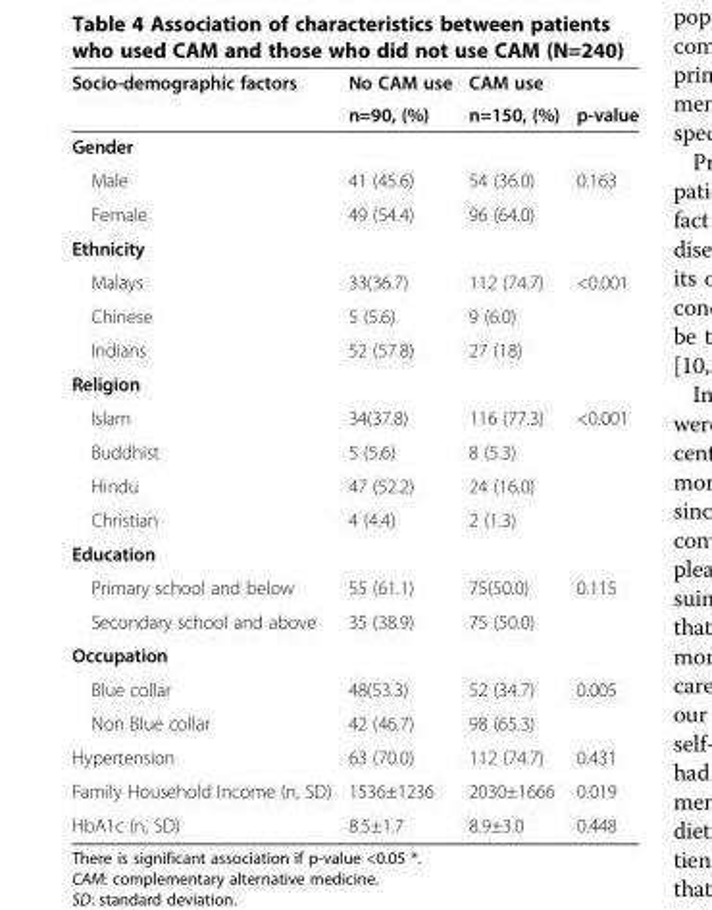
<table><thead><tr><td rowspan="2">Socio-demographic factors</td><td rowspan="2">No CAM use n=90, (%)</td><td rowspan="2">CAM use n=150, (%)</td><td rowspan="2">p-value</td></tr><tr></tr></thead><tbody><tr><td colspan="4">Gender</td></tr><tr><td>Male</td><td>41 (45.6)</td><td>54 (36.0)</td><td>0.163</td></tr><tr><td>Female</td><td>49 (54.4)</td><td>96 (64.0)</td><td></td></tr><tr><td colspan="4">Ethnicity</td></tr><tr><td>Malays</td><td>33(36.7)</td><td>112 (74.7)</td><td>&lt;0.001</td></tr><tr><td>Chinese</td><td>5 (5.6)</td><td>9 (6.0)</td><td></td></tr><tr><td>Indians</td><td>52 (57.8)</td><td>27 (18)</td><td></td></tr><tr><td colspan="4">Religion</td></tr><tr><td>Islam</td><td>34(37.8)</td><td>116 (77.3)</td><td>&lt;0.001</td></tr><tr><td>Buddhist</td><td>5 (5.6)</td><td>8 (5.3)</td><td></td></tr><tr><td>Hindu</td><td>47 (52.2)</td><td>24 (16.0)</td><td></td></tr><tr><td>Christian</td><td>4 (4.4)</td><td>2 (1.3)</td><td></td></tr><tr><td colspan="4">Education</td></tr><tr><td>Primary school and below</td><td>55 (61.1)</td><td>75(50.0)</td><td>0.115</td></tr><tr><td>Secondary school and above</td><td>35 (38.9)</td><td>75 (50.0)</td><td></td></tr><tr><td colspan="4">Occupation</td></tr><tr><td>Blue collar</td><td>48(53.3)</td><td>52 (34.7)</td><td>0.005</td></tr><tr><td>Non Blue collar</td><td>42 (46.7)</td><td>98 (65.3)</td><td></td></tr><tr><td>Hypertension</td><td>63 (70.0)</td><td>112 (74.7)</td><td>0.431</td></tr><tr><td>Family Household Income (n, SD)</td><td>1536±1236</td><td>2030±1666</td><td>0.019</td></tr><tr><td>HbA1c (n, SD)</td><td>8.5±1.7</td><td>8.9±3.0</td><td>0.448</td></tr></tbody></table>